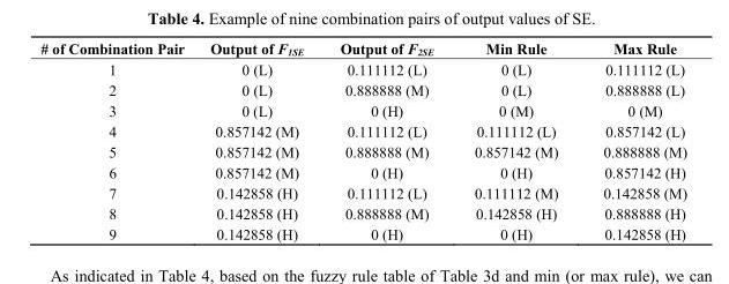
<table><thead><tr><td># of Combination Pair</td><td>Output of F<sub>1SE</sub></td><td>Output of F<sub>2SE</sub></td><td>Min Rule</td><td>Max Rule</td></tr></thead><tbody><tr><td>1</td><td>0 (L)</td><td>0.111112 (L)</td><td>0 (L)</td><td>0.111112 (L)</td></tr><tr><td>2</td><td>0 (L)</td><td>0.888888 (M)</td><td>0 (L)</td><td>0.888888 (L)</td></tr><tr><td>3</td><td>0 (L)</td><td>0 (H)</td><td>0 (M)</td><td>0 (M)</td></tr><tr><td>4</td><td>0.857142 (M)</td><td>0.111112 (L)</td><td>0.111112 (L)</td><td>0.857142 (L)</td></tr><tr><td>5</td><td>0.857142 (M)</td><td>0.888888 (M)</td><td>0.857142 (M)</td><td>0.888888 (M)</td></tr><tr><td>6</td><td>0.857142 (M)</td><td>0 (H)</td><td>0 (H)</td><td>0.857142 (H)</td></tr><tr><td>7</td><td>0.142858 (H)</td><td>0.111112 (L)</td><td>0.111112 (M)</td><td>0.142858 (M)</td></tr><tr><td>8</td><td>0.142858 (H)</td><td>0.888888 (M)</td><td>0.142858 (H)</td><td>0.888888 (H)</td></tr><tr><td>9</td><td>0.142858 (H)</td><td>0 (H)</td><td>0 (H)</td><td>0.142858 (H)</td></tr></tbody></table>